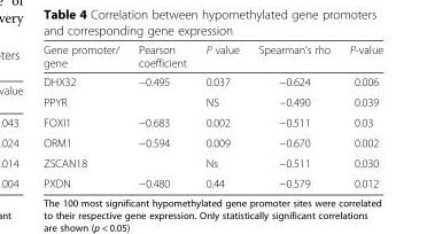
<table><thead><tr><td>Gene promoter/ gene</td><td>Pearson coefficient</td><td>P value</td><td>Spearman’s rho</td><td>P-value</td></tr></thead><tbody><tr><td>DHX32</td><td>−0.495</td><td>0.037</td><td>−0.624</td><td>0.006</td></tr><tr><td>PPYR</td><td></td><td>NS</td><td>−0.490</td><td>0.039</td></tr><tr><td>FOXI1</td><td>−0.683</td><td>0.002</td><td>−0.511</td><td>0.03</td></tr><tr><td>ORM1</td><td>−0.594</td><td>0.009</td><td>−0.670</td><td>0.002</td></tr><tr><td>ZSCAN18</td><td></td><td>Ns</td><td>−0.511</td><td>0.030</td></tr><tr><td>PXDN</td><td>−0.480</td><td>0.44</td><td>−0.579</td><td>0.012</td></tr></tbody></table>